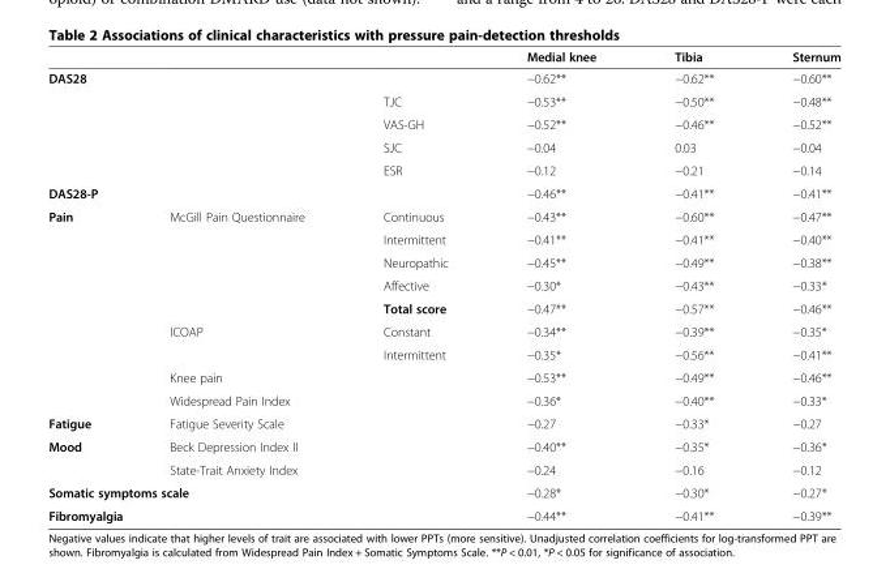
<table><thead><tr><td></td><td></td><td></td><td>Medial knee</td><td>Tibia</td><td>Sternum</td></tr></thead><tbody><tr><td colspan="3">DAS28</td><td>−0.62**</td><td>−0.62**</td><td>−0.60**</td></tr><tr><td colspan="2"></td><td>TJC</td><td>−0.53**</td><td>−0.50**</td><td>−0.48**</td></tr><tr><td colspan="2"></td><td>VAS-GH</td><td>−0.52**</td><td>−0.46**</td><td>−0.52**</td></tr><tr><td colspan="2"></td><td>SJC</td><td>−0.04</td><td>0.03</td><td>−0.04</td></tr><tr><td colspan="2"></td><td>ESR</td><td>−0.12</td><td>−0.21</td><td>−0.14</td></tr><tr><td colspan="3">DAS28-P</td><td>−0.46**</td><td>−0.41**</td><td>−0.41**</td></tr><tr><td rowspan="9">Pain</td><td rowspan="5">McGill Pain Questionnaire</td><td>Continuous</td><td>−0.43**</td><td>−0.60**</td><td>−0.47**</td></tr><tr><td>Intermittent</td><td>−0.41**</td><td>−0.41**</td><td>−0.40**</td></tr><tr><td>Neuropathic</td><td>−0.45**</td><td>−0.49**</td><td>−0.38**</td></tr><tr><td>Affective</td><td>−0.30*</td><td>−0.43**</td><td>−0.33*</td></tr><tr><td>Total score</td><td>−0.47**</td><td>−0.57**</td><td>−0.46**</td></tr><tr><td rowspan="2">ICOAP</td><td>Constant</td><td>−0.34**</td><td>−0.39**</td><td>−0.35*</td></tr><tr><td>Intermittent</td><td>−0.35*</td><td>−0.56**</td><td>−0.41**</td></tr><tr><td colspan="2">Knee pain</td><td>−0.53**</td><td>−0.49**</td><td>−0.46**</td></tr><tr><td colspan="2">Widespread Pain Index</td><td>−0.36*</td><td>−0.40**</td><td>−0.33*</td></tr><tr><td>Fatigue</td><td colspan="2">Fatigue Severity Scale</td><td>−0.27</td><td>−0.33*</td><td>−0.27</td></tr><tr><td rowspan="2">Mood</td><td colspan="2">Beck Depression Index II</td><td>−0.40**</td><td>−0.35*</td><td>−0.36*</td></tr><tr><td colspan="2">State-Trait Anxiety Index</td><td>−0.24</td><td>−0.16</td><td>−0.12</td></tr><tr><td colspan="3">Somatic symptoms scale</td><td>−0.28*</td><td>−0.30*</td><td>−0.27*</td></tr><tr><td colspan="3">Fibromyalgia</td><td>−0.44**</td><td>−0.41**</td><td>−0.39**</td></tr></tbody></table>